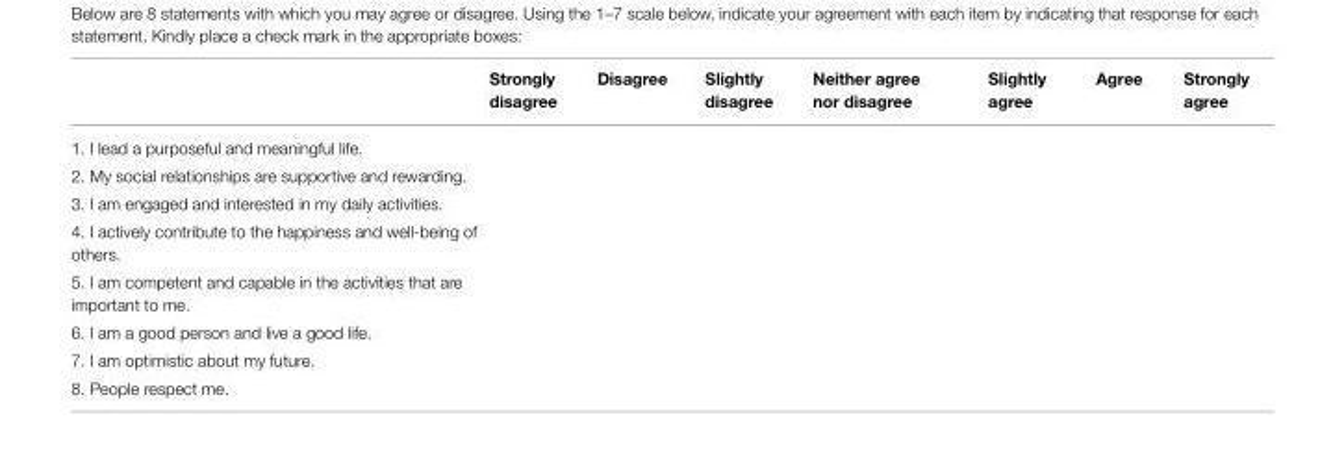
<table><thead><tr><td></td><td>Strongly disagree</td><td>Disagree</td><td>Slightly disagree</td><td>Neither agree nor disagree</td><td>Slightly agree</td><td>Agree</td><td>Strongly agree</td></tr></thead><tbody><tr><td colspan="8">1. I lead a purposeful and meaningful life.</td></tr><tr><td colspan="8">2. My social relationships are supportive and rewarding.</td></tr><tr><td colspan="8">3. I am engaged and interested in my daily activities.</td></tr><tr><td colspan="8">4. I actively contribute to the happiness and well-being of others.</td></tr><tr><td colspan="8">5. I am competent and capable in the activities that are important to me.</td></tr><tr><td colspan="8">6. I am a good person and live a good life.</td></tr><tr><td colspan="8">7. I am optimistic about my future.</td></tr><tr><td>8. People respect me.</td><td></td><td></td><td></td><td></td><td></td><td></td><td></td></tr></tbody></table>